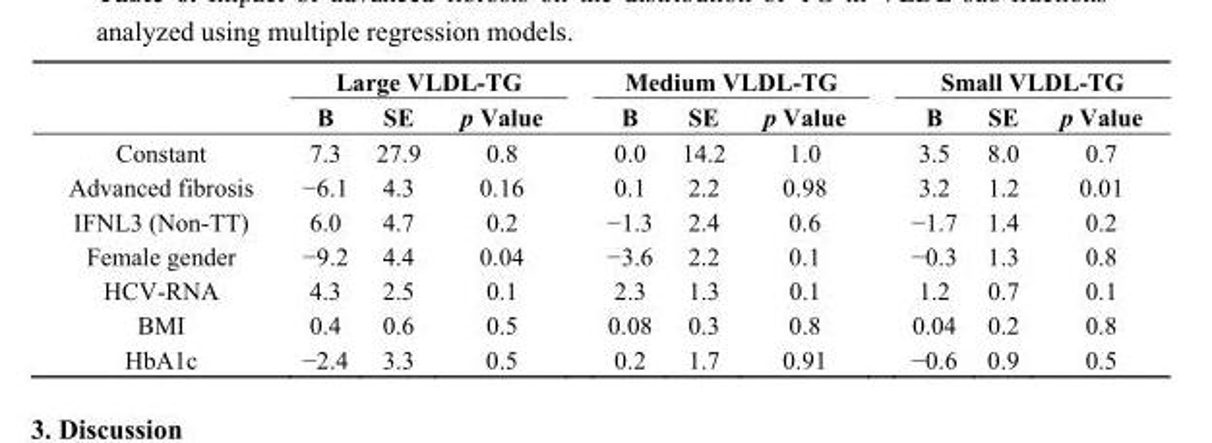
<table><thead><tr><td rowspan="2"></td><td colspan="3">Large VLDL-TG</td><td colspan="3">Medium VLDL-TG</td><td colspan="3">Small VLDL-TG</td></tr><tr><td>B</td><td>SE</td><td>p Value</td><td>B</td><td>SE</td><td>p Value</td><td>B</td><td>SE</td><td>p Value</td></tr></thead><tbody><tr><td>Constant</td><td>7.3</td><td>27.9</td><td>0.8</td><td>0.0</td><td>14.2</td><td>1.0</td><td>3.5</td><td>8.0</td><td>0.7</td></tr><tr><td>Advanced fibrosis</td><td>−6.1</td><td>4.3</td><td>0.16</td><td>0.1</td><td>2.2</td><td>0.98</td><td>3.2</td><td>1.2</td><td>0.01</td></tr><tr><td>IFNL3 (Non-TT)</td><td>6.0</td><td>4.7</td><td>0.2</td><td>−1.3</td><td>2.4</td><td>0.6</td><td>−1.7</td><td>1.4</td><td>0.2</td></tr><tr><td>Female gender</td><td>−9.2</td><td>4.4</td><td>0.04</td><td>−3.6</td><td>2.2</td><td>0.1</td><td>−0.3</td><td>1.3</td><td>0.8</td></tr><tr><td>HCV-RNA</td><td>4.3</td><td>2.5</td><td>0.1</td><td>2.3</td><td>1.3</td><td>0.1</td><td>1.2</td><td>0.7</td><td>0.1</td></tr><tr><td>BMI</td><td>0.4</td><td>0.6</td><td>0.5</td><td>0.08</td><td>0.3</td><td>0.8</td><td>0.04</td><td>0.2</td><td>0.8</td></tr><tr><td>HbA1c</td><td>−2.4</td><td>3.3</td><td>0.5</td><td>0.2</td><td>1.7</td><td>0.91</td><td>−0.6</td><td>0.9</td><td>0.5</td></tr></tbody></table>